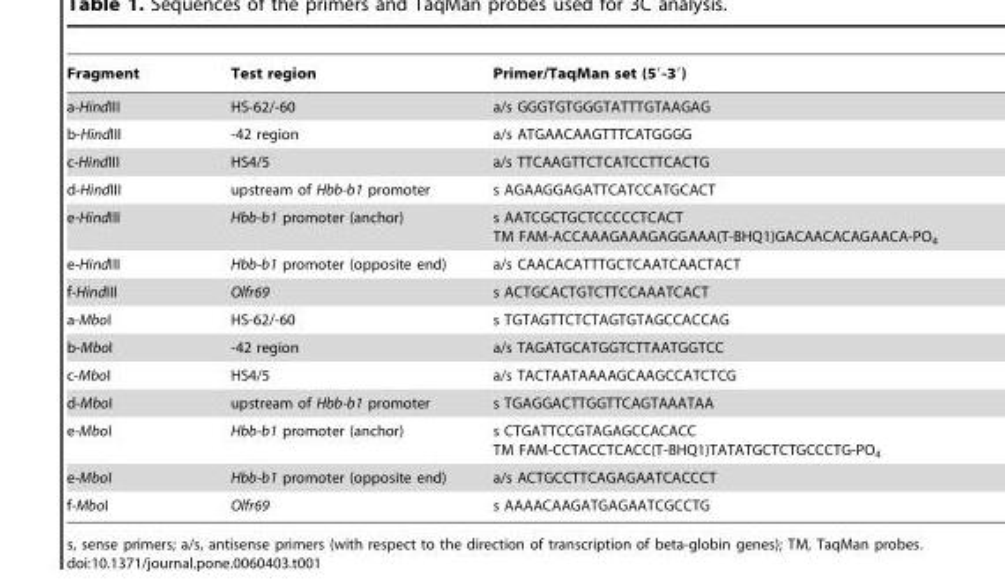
<table><thead><tr><td>Fragment</td><td>Test region</td><td>Primer/TaqMan set (5′-3′)</td></tr></thead><tbody><tr><td>a-HindIII</td><td>HS-62/-60</td><td>a/s GGGTGTGGGTATTTGTAAGAG</td></tr><tr><td>b-HindIII</td><td>-42 region</td><td>a/s ATGAACAAGTTTCATGGGG</td></tr><tr><td>c-HindIII</td><td>HS4/5</td><td>a/s TTCAAGTTCTCATCCTTCACTG</td></tr><tr><td>d-HindIII</td><td>upstream of Hbb-b1 promoter</td><td>s AGAAGGAGATTCATCCATGCACT</td></tr><tr><td>e-HindIII</td><td>Hbb-b1 promoter (anchor)</td><td>s AATCGCTGCTCCCCCTCACT TM FAM-ACCAAAGAAAGAGGAAA(T-BHQ1)GACAACACAGAACA-PO<sub>4</sub></td></tr><tr><td>e-HindIII</td><td>Hbb-b1 promoter (opposite end)</td><td>a/s CAACACATTTGCTCAATCAACTACT</td></tr><tr><td>f-HindIII</td><td>Olfr69</td><td>s ACTGCACTGTCTTCCAAATCACT</td></tr><tr><td>a-MboI</td><td>HS-62/-60</td><td>s TGTAGTTCTCTAGTGTAGCCACCAG</td></tr><tr><td>b-MboI</td><td>-42 region</td><td>a/s TAGATGCATGGTCTTAATGGTCC</td></tr><tr><td>c-MboI</td><td>HS4/5</td><td>a/s TACTAATAAAAGCAAGCCATCTCG</td></tr><tr><td>d-MboI</td><td>upstream of Hbb-b1 promoter</td><td>s TGAGGACTTGGTTCAGTAAATAA</td></tr><tr><td>e-MboI</td><td>Hbb-b1 promoter (anchor)</td><td>s CTGATTCCGTAGAGCCACACC TM FAM-CCTACCTCACC(T-BHQ1)TATATGCTCTGCCCTG-PO<sub>4</sub></td></tr><tr><td>e-MboI</td><td>Hbb-b1 promoter (opposite end)</td><td>a/s ACTGCCTTCAGAGAATCACCCT</td></tr><tr><td>f-MboI</td><td>Olfr69</td><td>s AAAACAAGATGAGAATCGCCTG</td></tr></tbody></table>